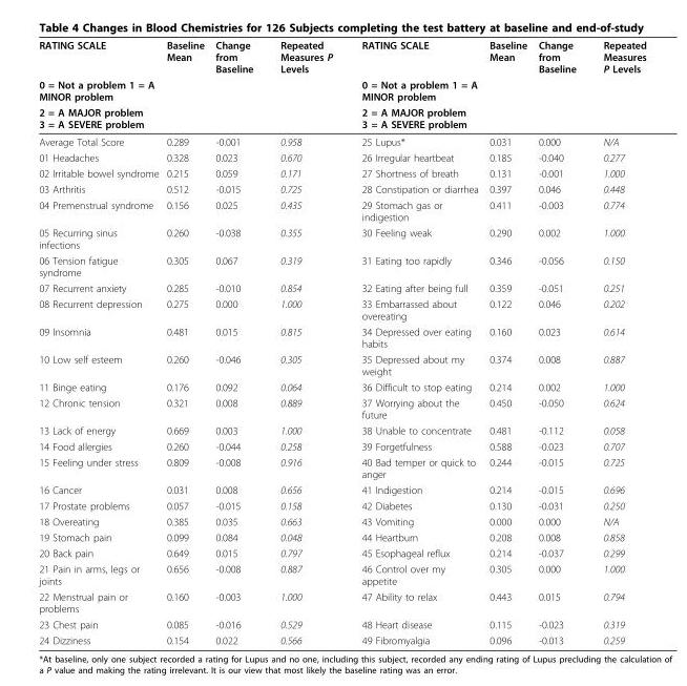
<table><thead><tr><td rowspan="3">RATING SCALE 0 = Not a problem 1 = A MINOR problem 2 = A MAJOR problem 3 = A SEVERE problem</td><td rowspan="3">Baseline Mean</td><td rowspan="3">Change from Baseline</td><td rowspan="3">Repeated Measures P Levels</td><td rowspan="3">RATING SCALE 0 = Not a problem 1 = A MINOR problem 2 = A MAJOR problem 3 = A SEVERE problem</td><td rowspan="3">Baseline Mean</td><td rowspan="3">Change from Baseline</td><td rowspan="3">Repeated Measures P Levels</td></tr><tr></tr><tr></tr></thead><tbody><tr><td>Average Total Score</td><td>0.289</td><td>-0.001</td><td>0.958</td><td>25 Lupus*</td><td>0.031</td><td>0.000</td><td>N/A</td></tr><tr><td>01 Headaches</td><td>0.328</td><td>0.023</td><td>0.670</td><td>26 Irregular heartbeat</td><td>0.185</td><td>-0.040</td><td>0.277</td></tr><tr><td>02 Irritable bowel syndrome</td><td>0.215</td><td>0.059</td><td>0.171</td><td>27 Shortness of breath</td><td>0.131</td><td>-0.001</td><td>1.000</td></tr><tr><td>03 Arthritis</td><td>0.512</td><td>-0.015</td><td>0.725</td><td>28 Constipation or diarrhea</td><td>0.397</td><td>0.046</td><td>0.448</td></tr><tr><td>04 Premenstrual syndrome</td><td>0.156</td><td>0.025</td><td>0.435</td><td>29 Stomach gas or indigestion</td><td>0.411</td><td>-0.003</td><td>0.774</td></tr><tr><td>05 Recurring sinus infections</td><td>0.260</td><td>-0.038</td><td>0.355</td><td>30 Feeling weak</td><td>0.290</td><td>0.002</td><td>1.000</td></tr><tr><td>06 Tension fatigue syndrome</td><td>0.305</td><td>0.067</td><td>0.319</td><td>31 Eating too rapidly</td><td>0.346</td><td>-0.056</td><td>0.150</td></tr><tr><td>07 Recurrent anxiety</td><td>0.285</td><td>-0.010</td><td>0.854</td><td>32 Eating after being full</td><td>0.359</td><td>-0.051</td><td>0.251</td></tr><tr><td>08 Recurrent depression</td><td>0.275</td><td>0.000</td><td>1.000</td><td>33 Embarrassed about overeating</td><td>0.122</td><td>0.046</td><td>0.202</td></tr><tr><td>09 Insomnia</td><td>0.481</td><td>0.015</td><td>0.815</td><td>34 Depressed over eating habits</td><td>0.160</td><td>0.023</td><td>0.614</td></tr><tr><td>10 Low self esteem</td><td>0.260</td><td>-0.046</td><td>0.305</td><td>35 Depressed about my weight</td><td>0.374</td><td>0.008</td><td>0.887</td></tr><tr><td>11 Binge eating</td><td>0.176</td><td>0.092</td><td>0.064</td><td>36 Difficult to stop eating</td><td>0.214</td><td>0.002</td><td>1.000</td></tr><tr><td>12 Chronic tension</td><td>0.321</td><td>0.008</td><td>0.889</td><td>37 Worrying about the future</td><td>0.450</td><td>-0.050</td><td>0.624</td></tr><tr><td>13 Lack of energy</td><td>0.669</td><td>0.003</td><td>1.000</td><td>38 Unable to concentrate</td><td>0.481</td><td>-0.112</td><td>0.058</td></tr><tr><td>14 Food allergies</td><td>0.260</td><td>-0.044</td><td>0.258</td><td>39 Forgetfulness</td><td>0.588</td><td>-0.023</td><td>0.707</td></tr><tr><td>15 Feeling under stress</td><td>0.809</td><td>-0.008</td><td>0.916</td><td>40 Bad temper or quick to anger</td><td>0.244</td><td>-0.015</td><td>0.725</td></tr><tr><td>16 Cancer</td><td>0.031</td><td>0.008</td><td>0.656</td><td>41 Indigestion</td><td>0.214</td><td>-0.015</td><td>0.696</td></tr><tr><td>17 Prostate problems</td><td>0.057</td><td>-0.015</td><td>0.158</td><td>42 Diabetes</td><td>0.130</td><td>-0.031</td><td>0.250</td></tr><tr><td>18 Overeating</td><td>0.385</td><td>0.035</td><td>0.663</td><td>43 Vomiting</td><td>0.000</td><td>0.000</td><td>N/A</td></tr><tr><td>19 Stomach pain</td><td>0.099</td><td>0.084</td><td>0.048</td><td>44 Heartburn</td><td>0.208</td><td>0.008</td><td>0.858</td></tr><tr><td>20 Back pain</td><td>0.649</td><td>0.015</td><td>0.797</td><td>45 Esophageal reflux</td><td>0.214</td><td>-0.037</td><td>0.299</td></tr><tr><td>21 Pain in arms, legs or joints</td><td>0.656</td><td>-0.008</td><td>0.887</td><td>46 Control over my appetite</td><td>0.305</td><td>0.000</td><td>1.000</td></tr><tr><td>22 Menstrual pain or problems</td><td>0.160</td><td>-0.003</td><td>1.000</td><td>47 Ability to relax</td><td>0.443</td><td>0.015</td><td>0.794</td></tr><tr><td>23 Chest pain</td><td>0.085</td><td>-0.016</td><td>0.529</td><td>48 Heart disease</td><td>0.115</td><td>-0.023</td><td>0.319</td></tr><tr><td>24 Dizziness</td><td>0.154</td><td>0.022</td><td>0.566</td><td>49 Fibromyalgia</td><td>0.096</td><td>-0.013</td><td>0.259</td></tr></tbody></table>